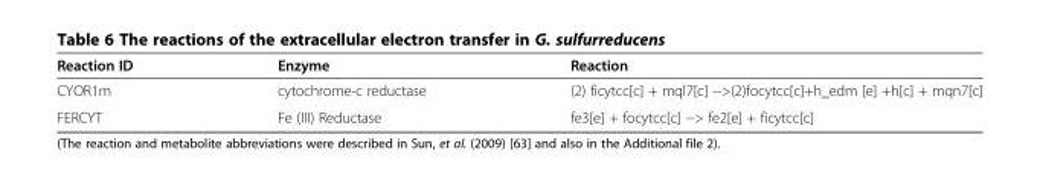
<table><thead><tr><td>Reaction ID</td><td>Enzyme</td><td>Reaction</td></tr></thead><tbody><tr><td>CYOR1m</td><td>cytochrome-c reductase</td><td>(2) ficytcc[c] + mql7[c] --&gt;(2)focytcc[c]+h_edm [e] +h[c] + mqn7[c]</td></tr><tr><td>FERCYT</td><td>Fe (III) Reductase</td><td>fe3[e] + focytcc[c] --&gt; fe2[e] + ficytcc[c]</td></tr></tbody></table>